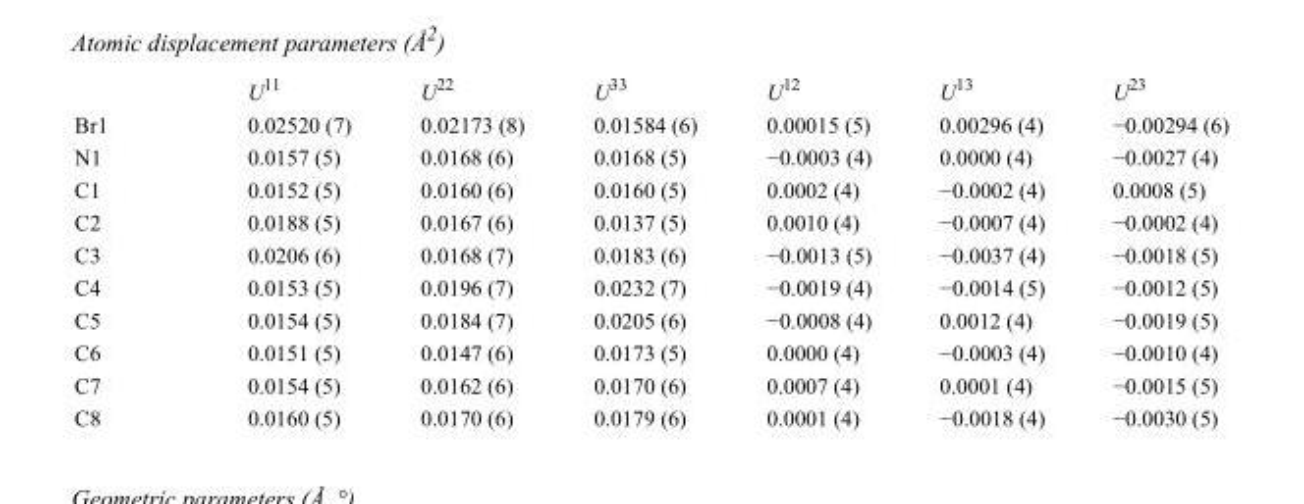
<table><thead><tr><td></td><td>U<sup>11</sup></td><td>U<sup>22</sup></td><td>U<sup>33</sup></td><td>U<sup>12</sup></td><td>U<sup>13</sup></td><td>U<sup>23</sup></td></tr></thead><tbody><tr><td>Br1</td><td>0.02520 (7)</td><td>0.02173 (8)</td><td>0.01584 (6)</td><td>0.00015 (5)</td><td>0.00296 (4)</td><td>−0.00294 (6)</td></tr><tr><td>N1</td><td>0.0157 (5)</td><td>0.0168 (6)</td><td>0.0168 (5)</td><td>−0.0003 (4)</td><td>0.0000 (4)</td><td>−0.0027 (4)</td></tr><tr><td>C1</td><td>0.0152 (5)</td><td>0.0160 (6)</td><td>0.0160 (5)</td><td>0.0002 (4)</td><td>−0.0002 (4)</td><td>0.0008 (5)</td></tr><tr><td>C2</td><td>0.0188 (5)</td><td>0.0167 (6)</td><td>0.0137 (5)</td><td>0.0010 (4)</td><td>−0.0007 (4)</td><td>−0.0002 (4)</td></tr><tr><td>C3</td><td>0.0206 (6)</td><td>0.0168 (7)</td><td>0.0183 (6)</td><td>−0.0013 (5)</td><td>−0.0037 (4)</td><td>−0.0018 (5)</td></tr><tr><td>C4</td><td>0.0153 (5)</td><td>0.0196 (7)</td><td>0.0232 (7)</td><td>−0.0019 (4)</td><td>−0.0014 (5)</td><td>−0.0012 (5)</td></tr><tr><td>C5</td><td>0.0154 (5)</td><td>0.0184 (7)</td><td>0.0205 (6)</td><td>−0.0008 (4)</td><td>0.0012 (4)</td><td>−0.0019 (5)</td></tr><tr><td>C6</td><td>0.0151 (5)</td><td>0.0147 (6)</td><td>0.0173 (5)</td><td>0.0000 (4)</td><td>−0.0003 (4)</td><td>−0.0010 (4)</td></tr><tr><td>C7</td><td>0.0154 (5)</td><td>0.0162 (6)</td><td>0.0170 (6)</td><td>0.0007 (4)</td><td>0.0001 (4)</td><td>−0.0015 (5)</td></tr><tr><td>C8</td><td>0.0160 (5)</td><td>0.0170 (6)</td><td>0.0179 (6)</td><td>0.0001 (4)</td><td>−0.0018 (4)</td><td>−0.0030 (5)</td></tr></tbody></table>